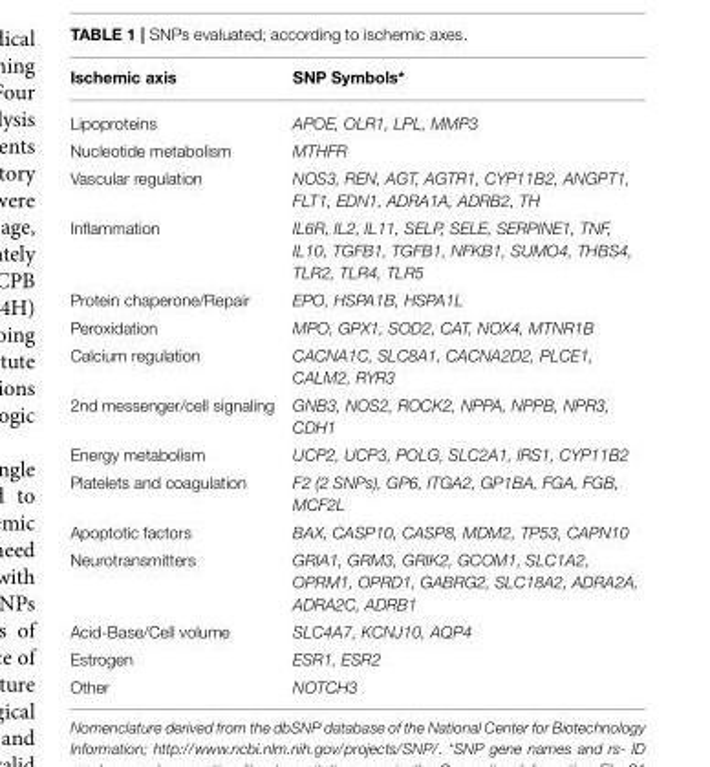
<table><thead><tr><td>Ischemic axis</td><td>SNP Symbols*</td></tr></thead><tbody><tr><td>Lipoproteins</td><td>APOE, OLR1, LPL, MMP3</td></tr><tr><td>Nucleotide metabolism</td><td>MTHFR</td></tr><tr><td>Vascular regulation</td><td>NOS3, REN, AGT, AGTR1, CYP11B2, ANGPT1, FLT1, EDN1, ADRA1A, ADRB2, TH</td></tr><tr><td>Inflammation</td><td>IL6R, IL2, IL11, SELP, SELE, SERPINE1, TNF, IL10, TGFB1, TGFB1, NFKB1, SUMO4, THBS4, TLR2, TLR4, TLR5</td></tr><tr><td>Protein chaperone/Repair</td><td>EPO, HSPA1B, HSPA1L</td></tr><tr><td>Peroxidation</td><td>MPO, GPX1, SOD2, CAT, NOX4, MTNR1B</td></tr><tr><td>Calcium regulation</td><td>CACNA1C, SLC8A1, CACNA2D2, PLCE1, CALM2, RYR3</td></tr><tr><td>2nd messenger/cell signaling</td><td>GNB3, NOS2, ROCK2, NPPA, NPPB, NPR3, CDH1</td></tr><tr><td>Energy metabolism</td><td>UCP2, UCP3, POLG, SLC2A1, IRS1, CYP11B2</td></tr><tr><td>Platelets and coagulation</td><td>F2 (2 SNPs), GP6, ITGA2, GP1BA, FGA, FGB, MCF2L</td></tr><tr><td>Apoptotic factors</td><td>BAX, CASP10, CASP8, MDM2, TP53, CAPN10</td></tr><tr><td>Neurotransmitters</td><td>GRIA1, GRM3, GRIK2, GCOM1, SLC1A2, OPRM1, OPRD1, GABRG2, SLC18A2, ADRA2A, ADRA2C, ADRB1</td></tr><tr><td>Acid-Base/Cell volume</td><td>SLC4A7, KCNJ10, AQP4</td></tr><tr><td>Estrogen</td><td>ESR1, ESR2</td></tr><tr><td>Other</td><td>NOTCH3</td></tr></tbody></table>